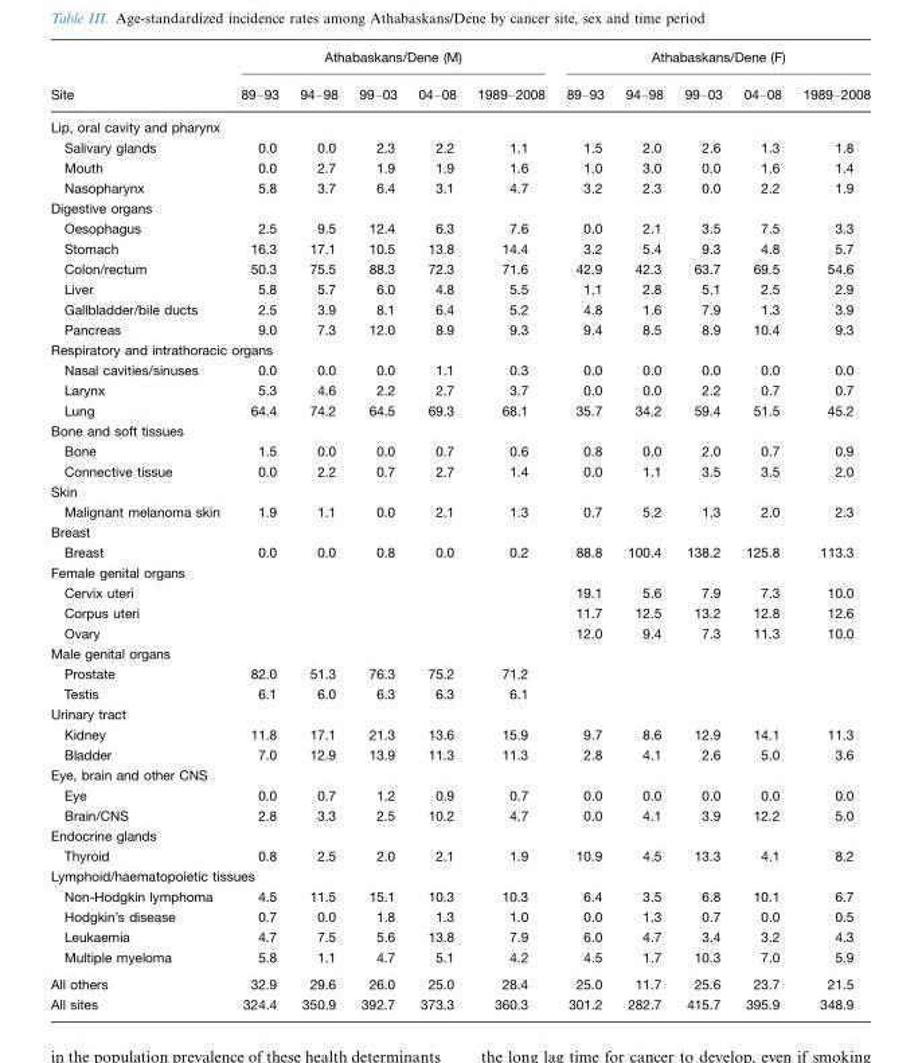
<table><thead><tr><td rowspan="2">Site</td><td colspan="5">Athabaskans/Dene (M)</td><td colspan="5">Athabaskans/Dene (F)</td></tr><tr><td>89–93</td><td>94–98</td><td>99–03</td><td>04–08</td><td>1989–2008</td><td>89–93</td><td>94–98</td><td>99–03</td><td>04–08</td><td>1989–2008</td></tr></thead><tbody><tr><td colspan="11">Lip, oral cavity and pharynx</td></tr><tr><td>Salivary glands</td><td>0.0</td><td>0.0</td><td>2.3</td><td>2.2</td><td>1.1</td><td>1.5</td><td>2.0</td><td>2.6</td><td>1.3</td><td>1.8</td></tr><tr><td>Mouth</td><td>0.0</td><td>2.7</td><td>1.9</td><td>1.9</td><td>1.6</td><td>1.0</td><td>3.0</td><td>0.0</td><td>1.6</td><td>1.4</td></tr><tr><td>Nasopharynx</td><td>5.8</td><td>3.7</td><td>6.4</td><td>3.1</td><td>4.7</td><td>3.2</td><td>2.3</td><td>0.0</td><td>2.2</td><td>1.9</td></tr><tr><td colspan="11">Digestive organs</td></tr><tr><td>Oesophagus</td><td>2.5</td><td>9.5</td><td>12.4</td><td>6.3</td><td>7.6</td><td>0.0</td><td>2.1</td><td>3.5</td><td>7.5</td><td>3.3</td></tr><tr><td>Stomach</td><td>16.3</td><td>17.1</td><td>10.5</td><td>13.8</td><td>14.4</td><td>3.2</td><td>5.4</td><td>9.3</td><td>4.8</td><td>5.7</td></tr><tr><td>Colon/rectum</td><td>50.3</td><td>75.5</td><td>88.3</td><td>72.3</td><td>71.6</td><td>42.9</td><td>42.3</td><td>63.7</td><td>69.5</td><td>54.6</td></tr><tr><td>Liver</td><td>5.8</td><td>5.7</td><td>6.0</td><td>4.8</td><td>5.5</td><td>1.1</td><td>2.8</td><td>5.1</td><td>2.5</td><td>2.9</td></tr><tr><td>Gallbladder/bile ducts</td><td>2.5</td><td>3.9</td><td>8.1</td><td>6.4</td><td>5.2</td><td>4.8</td><td>1.6</td><td>7.9</td><td>1.3</td><td>3.9</td></tr><tr><td>Pancreas</td><td>9.0</td><td>7.3</td><td>12.0</td><td>8.9</td><td>9.3</td><td>9.4</td><td>8.5</td><td>8.9</td><td>10.4</td><td>9.3</td></tr><tr><td colspan="11">Respiratory and intrathoracic organs</td></tr><tr><td>Nasal cavities/sinuses</td><td>0.0</td><td>0.0</td><td>0.0</td><td>1.1</td><td>0.3</td><td>0.0</td><td>0.0</td><td>0.0</td><td>0.0</td><td>0.0</td></tr><tr><td>Larynx</td><td>5.3</td><td>4.6</td><td>2.2</td><td>2.7</td><td>3.7</td><td>0.0</td><td>0.0</td><td>2.2</td><td>0.7</td><td>0.7</td></tr><tr><td>Lung</td><td>64.4</td><td>74.2</td><td>64.5</td><td>69.3</td><td>68.1</td><td>35.7</td><td>34.2</td><td>59.4</td><td>51.5</td><td>45.2</td></tr><tr><td colspan="11">Bone and soft tissues</td></tr><tr><td>Bone</td><td>1.5</td><td>0.0</td><td>0.0</td><td>0.7</td><td>0.6</td><td>0.8</td><td>0.0</td><td>2.0</td><td>0.7</td><td>0.9</td></tr><tr><td>Connective tissue</td><td>0.0</td><td>2.2</td><td>0.7</td><td>2.7</td><td>1.4</td><td>0.0</td><td>1.1</td><td>3.5</td><td>3.5</td><td>2.0</td></tr><tr><td colspan="11">Skin</td></tr><tr><td>Malignant melanoma skin</td><td>1.9</td><td>1.1</td><td>0.0</td><td>2.1</td><td>1.3</td><td>0.7</td><td>5.2</td><td>1.3</td><td>2.0</td><td>2.3</td></tr><tr><td colspan="11">Breast</td></tr><tr><td>Breast</td><td>0.0</td><td>0.0</td><td>0.8</td><td>0.0</td><td>0.2</td><td>88.8</td><td>100.4</td><td>138.2</td><td>125.8</td><td>113.3</td></tr><tr><td colspan="11">Female genital organs</td></tr><tr><td>Cervix uteri</td><td></td><td></td><td></td><td></td><td></td><td>19.1</td><td>5.6</td><td>7.9</td><td>7.3</td><td>10.0</td></tr><tr><td>Corpus uteri</td><td></td><td></td><td></td><td></td><td></td><td>11.7</td><td>12.5</td><td>13.2</td><td>12.8</td><td>12.6</td></tr><tr><td>Ovary</td><td></td><td></td><td></td><td></td><td></td><td>12.0</td><td>9.4</td><td>7.3</td><td>11.3</td><td>10.0</td></tr><tr><td colspan="11">Male genital organs</td></tr><tr><td>Prostate</td><td>82.0</td><td>51.3</td><td>76.3</td><td>75.2</td><td>71.2</td><td></td><td></td><td></td><td></td><td></td></tr><tr><td>Testis</td><td>6.1</td><td>6.0</td><td>6.3</td><td>6.3</td><td>6.1</td><td></td><td></td><td></td><td></td><td></td></tr><tr><td colspan="11">Urinary tract</td></tr><tr><td>Kidney</td><td>11.8</td><td>17.1</td><td>21.3</td><td>13.6</td><td>15.9</td><td>9.7</td><td>8.6</td><td>12.9</td><td>14.1</td><td>11.3</td></tr><tr><td>Bladder</td><td>7.0</td><td>12.9</td><td>13.9</td><td>11.3</td><td>11.3</td><td>2.8</td><td>4.1</td><td>2.6</td><td>5.0</td><td>3.6</td></tr><tr><td colspan="11">Eye, brain and other CNS</td></tr><tr><td>Eye</td><td>0.0</td><td>0.7</td><td>1.2</td><td>0.9</td><td>0.7</td><td>0.0</td><td>0.0</td><td>0.0</td><td>0.0</td><td>0.0</td></tr><tr><td>Brain/CNS</td><td>2.8</td><td>3.3</td><td>2.5</td><td>10.2</td><td>4.7</td><td>0.0</td><td>4.1</td><td>3.9</td><td>12.2</td><td>5.0</td></tr><tr><td colspan="11">Endocrine glands</td></tr><tr><td>Thyroid</td><td>0.8</td><td>2.5</td><td>2.0</td><td>2.1</td><td>1.9</td><td>10.9</td><td>4.5</td><td>13.3</td><td>4.1</td><td>8.2</td></tr><tr><td colspan="11">Lymphoid/haematopoietic tissues</td></tr><tr><td>Non-Hodgkin lymphoma</td><td>4.5</td><td>11.5</td><td>15.1</td><td>10.3</td><td>10.3</td><td>6.4</td><td>3.5</td><td>6.8</td><td>10.1</td><td>6.7</td></tr><tr><td>Hodgkin’s disease</td><td>0.7</td><td>0.0</td><td>1.8</td><td>1.3</td><td>1.0</td><td>0.0</td><td>1.3</td><td>0.7</td><td>0.0</td><td>0.5</td></tr><tr><td>Leukaemia</td><td>4.7</td><td>7.5</td><td>5.6</td><td>13.8</td><td>7.9</td><td>6.0</td><td>4.7</td><td>3.4</td><td>3.2</td><td>4.3</td></tr><tr><td>Multiple myeloma</td><td>5.8</td><td>1.1</td><td>4.7</td><td>5.1</td><td>4.2</td><td>4.5</td><td>1.7</td><td>10.3</td><td>7.0</td><td>5.9</td></tr><tr><td>All others</td><td>32.9</td><td>29.6</td><td>26.0</td><td>25.0</td><td>28.4</td><td>25.0</td><td>11.7</td><td>25.6</td><td>23.7</td><td>21.5</td></tr><tr><td>All sites</td><td>324.4</td><td>350.9</td><td>392.7</td><td>373.3</td><td>360.3</td><td>301.2</td><td>282.7</td><td>415.7</td><td>395.9</td><td>348.9</td></tr></tbody></table>